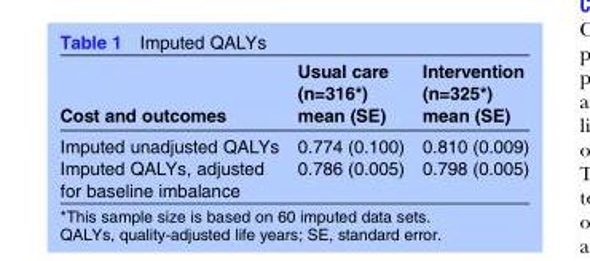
<table><thead><tr><td>Cost and outcomes</td><td>Usual care (n=316*) mean (SE)</td><td>Intervention (n=325*) mean (SE)</td></tr></thead><tbody><tr><td>Imputed unadjusted QALYs</td><td>0.774 (0.100)</td><td>0.810 (0.009)</td></tr><tr><td>Imputed QALYs, adjusted for baseline imbalance</td><td>0.786 (0.005)</td><td>0.798 (0.005)</td></tr></tbody></table>